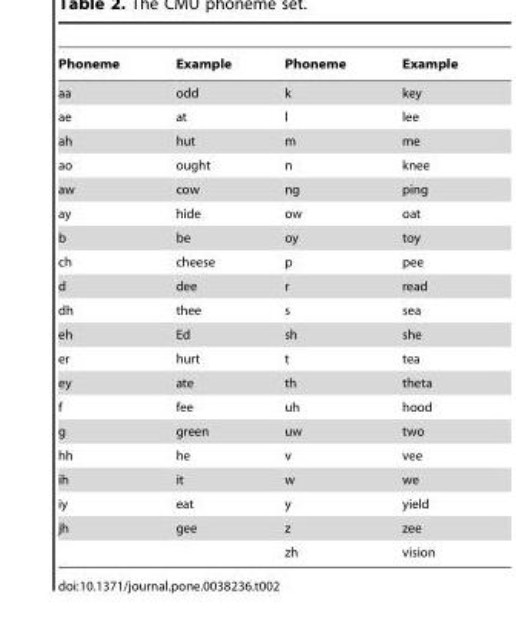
<table><thead><tr><td>Phoneme</td><td>Example</td><td>Phoneme</td><td>Example</td></tr></thead><tbody><tr><td>aa</td><td>odd</td><td>k</td><td>key</td></tr><tr><td>ae</td><td>at</td><td>l</td><td>lee</td></tr><tr><td>ah</td><td>hut</td><td>m</td><td>me</td></tr><tr><td>ao</td><td>ought</td><td>n</td><td>knee</td></tr><tr><td>aw</td><td>cow</td><td>ng</td><td>ping</td></tr><tr><td>ay</td><td>hide</td><td>ow</td><td>oat</td></tr><tr><td>b</td><td>be</td><td>oy</td><td>toy</td></tr><tr><td>ch</td><td>cheese</td><td>p</td><td>pee</td></tr><tr><td>d</td><td>dee</td><td>r</td><td>read</td></tr><tr><td>dh</td><td>thee</td><td>s</td><td>sea</td></tr><tr><td>eh</td><td>Ed</td><td>sh</td><td>she</td></tr><tr><td>er</td><td>hurt</td><td>t</td><td>tea</td></tr><tr><td>ey</td><td>ate</td><td>th</td><td>theta</td></tr><tr><td>f</td><td>fee</td><td>uh</td><td>hood</td></tr><tr><td>g</td><td>green</td><td>uw</td><td>two</td></tr><tr><td>hh</td><td>he</td><td>v</td><td>vee</td></tr><tr><td>ih</td><td>it</td><td>w</td><td>we</td></tr><tr><td>iy</td><td>eat</td><td>y</td><td>yield</td></tr><tr><td rowspan="2">jh</td><td>gee</td><td>z</td><td>zee</td></tr><tr><td></td><td>zh</td><td>vision</td></tr></tbody></table>